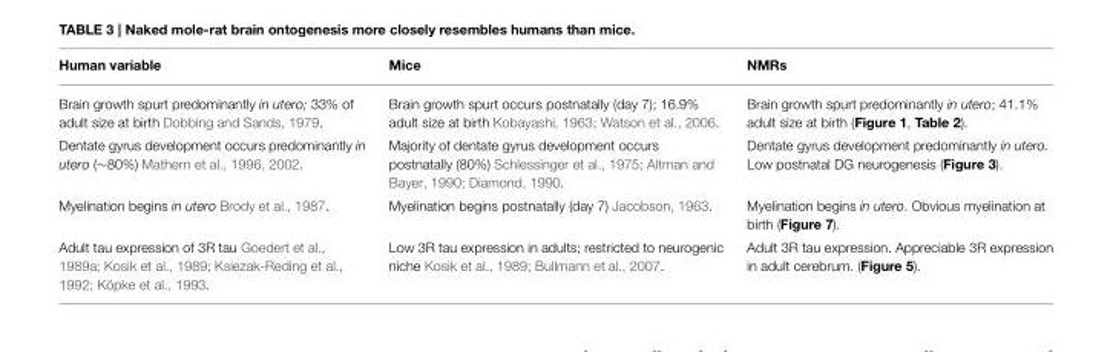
<table><thead><tr><td>Human variable</td><td>Mice</td><td>NMRs</td></tr></thead><tbody><tr><td>Brain growth spurt predominantly in utero; 33% of adult size at birth Dobbing and Sands, 1979.</td><td>Brain growth spurt occurs postnatally (day 7); 16.9% adult size at birth Kobayashi, 1963; Watson et al., 2006.</td><td>Brain growth spurt predominantly in utero; 41.1% adult size at birth (Figure 1, Table 2).</td></tr><tr><td>Dentate gyrus development occurs predominantly in utero (∼80%) Mathern et al., 1996, 2002.</td><td>Majority of dentate gyrus development occurs postnatally (80%) Schlessinger et al., 1975; Altman and Bayer, 1990; Diamond, 1990.</td><td>Dentate gyrus development predominantly in utero. Low postnatal DG neurogenesis (Figure 3).</td></tr><tr><td>Myelination begins in utero Brody et al., 1987.</td><td>Myelination begins postnatally (day 7) Jacobson, 1963.</td><td>Myelination begins in utero. Obvious myelination at birth (Figure 7).</td></tr><tr><td>Adult tau expression of 3R tau Goedert et al., 1989a; Kosik et al., 1989; Ksiezak-Reding et al., 1992; Köpke et al., 1993.</td><td>Low 3R tau expression in adults; restricted to neurogenic niche Kosik et al., 1989; Bullmann et al., 2007.</td><td>Adult 3R tau expression. Appreciable 3R expression in adult cerebrum. (Figure 5).</td></tr></tbody></table>